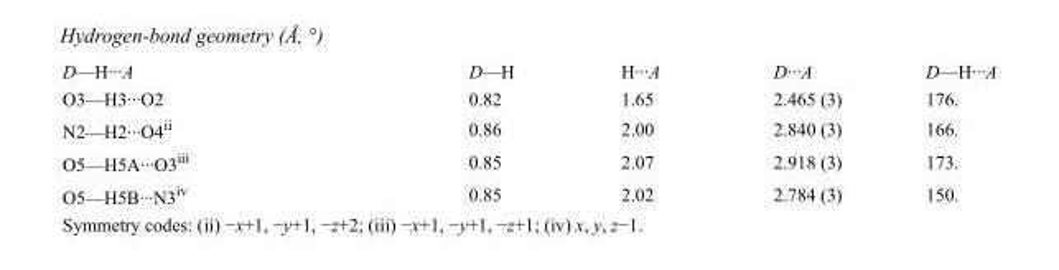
<table><tbody><tr><td>D—H···A</td><td>D—H</td><td>H···A</td><td>D···A</td><td>D—H···A</td></tr><tr><td>O3—H3···O2</td><td>0.82</td><td>1.65</td><td>2.465 (3)</td><td>176.</td></tr><tr><td>N2—H2···O4<sup>ii</sup></td><td>0.86</td><td>2.00</td><td>2.840 (3)</td><td>166.</td></tr><tr><td>O5—H5A···O3<sup>iii</sup></td><td>0.85</td><td>2.07</td><td>2.918 (3)</td><td>173.</td></tr><tr><td>O5—H5B···N3<sup>iv</sup></td><td>0.85</td><td>2.02</td><td>2.784 (3)</td><td>150.</td></tr></tbody></table>